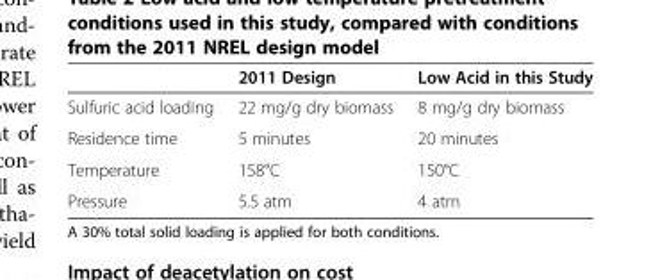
<table><thead><tr><td></td><td>2011 Design</td><td>Low Acid in this Study</td></tr></thead><tbody><tr><td>Sulfuric acid loading</td><td>22 mg/g dry biomass</td><td>8 mg/g dry biomass</td></tr><tr><td>Residence time</td><td>5 minutes</td><td>20 minutes</td></tr><tr><td>Temperature</td><td>158°C</td><td>150°C</td></tr><tr><td>Pressure</td><td>5.5 atm</td><td>4 atm</td></tr></tbody></table>